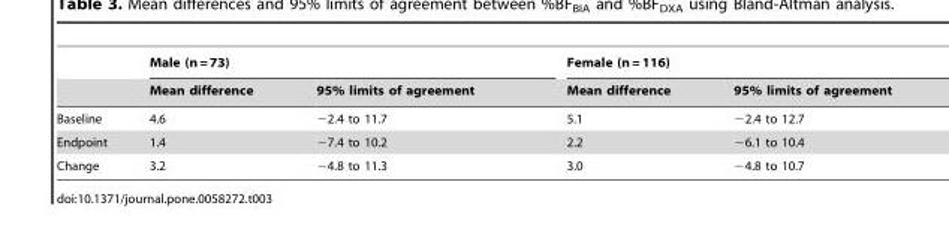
<table><thead><tr><td rowspan="2"></td><td colspan="2">Male (n = 73)</td><td colspan="2">Female (n = 116)</td></tr><tr><td>Mean difference</td><td>95% limits of agreement</td><td>Mean difference</td><td>95% limits of agreement</td></tr></thead><tbody><tr><td>Baseline</td><td>4.6</td><td>−2.4 to 11.7</td><td>5.1</td><td>−2.4 to 12.7</td></tr><tr><td>Endpoint</td><td>1.4</td><td>−7.4 to 10.2</td><td>2.2</td><td>−6.1 to 10.4</td></tr><tr><td>Change</td><td>3.2</td><td>−4.8 to 11.3</td><td>3.0</td><td>−4.8 to 10.7</td></tr></tbody></table>